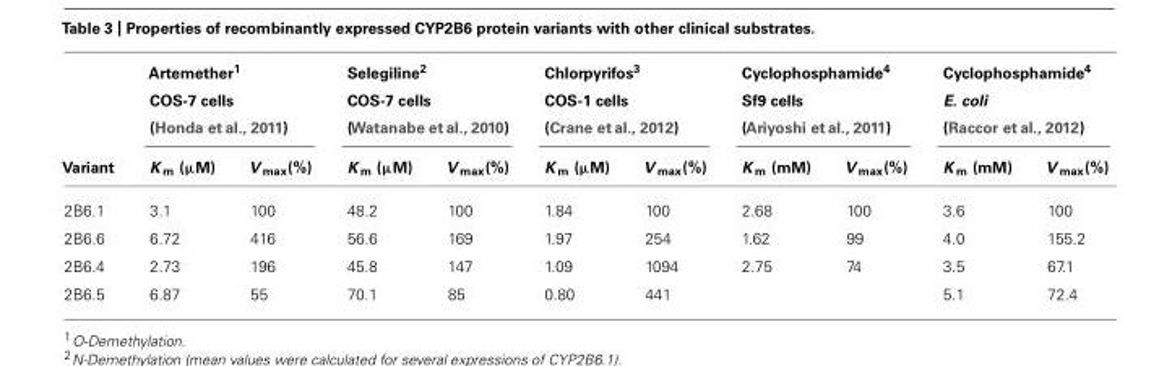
<table><thead><tr><td rowspan="2">Variant</td><td colspan="2">Artemether<sup>1</sup> COS-7 cells (Honda et al., 2011)</td><td colspan="2">Selegiline<sup>2</sup> COS-7 cells (Watanabe et al., 2010)</td><td colspan="2">Chlorpyrifos<sup>3</sup> COS-1 cells (Crane et al., 2012)</td><td colspan="2">Cyclophosphamide<sup>4</sup> Sf9 cells (Ariyoshi et al., 2011)</td><td colspan="2">Cyclophosphamide<sup>4</sup> E. coli (Raccor et al., 2012)</td></tr><tr><td>K <sub>m</sub> (μM)</td><td>V <sub>max</sub>(%)</td><td>K <sub>m</sub> (μM)</td><td>V <sub>max</sub>(%)</td><td>K <sub>m</sub> (μM)</td><td>V <sub>max</sub>(%)</td><td>K <sub>m</sub> (mM)</td><td>V <sub>max</sub>(%)</td><td>K <sub>m</sub> (mM)</td><td>V <sub>max</sub>(%)</td></tr></thead><tbody><tr><td>2B6.1</td><td>3.1</td><td>100</td><td>48.2</td><td>100</td><td>1.84</td><td>100</td><td>2.68</td><td>100</td><td>3.6</td><td>100</td></tr><tr><td>2B6.6</td><td>6.72</td><td>416</td><td>56.6</td><td>169</td><td>1.97</td><td>254</td><td>1.62</td><td>99</td><td>4.0</td><td>155.2</td></tr><tr><td>2B6.4</td><td>2.73</td><td>196</td><td>45.8</td><td>147</td><td>1.09</td><td>1094</td><td>2.75</td><td>74</td><td>3.5</td><td>67.1</td></tr><tr><td>2B6.5</td><td>6.87</td><td>55</td><td>70.1</td><td>85</td><td>0.80</td><td>441</td><td></td><td></td><td>5.1</td><td>72.4</td></tr></tbody></table>